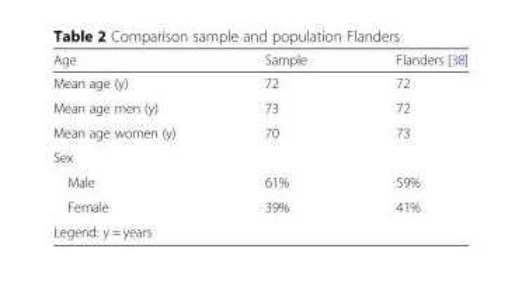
<table><thead><tr><td>Age</td><td>Sample</td><td>Flanders [38]</td></tr></thead><tbody><tr><td>Mean age (y)</td><td>72</td><td>72</td></tr><tr><td>Mean age men (y)</td><td>73</td><td>72</td></tr><tr><td>Mean age women (y)</td><td>70</td><td>73</td></tr><tr><td colspan="3">Sex</td></tr><tr><td>Male</td><td>61%</td><td>59%</td></tr><tr><td>Female</td><td>39%</td><td>41%</td></tr><tr><td colspan="3">Legend: y = years</td></tr></tbody></table>